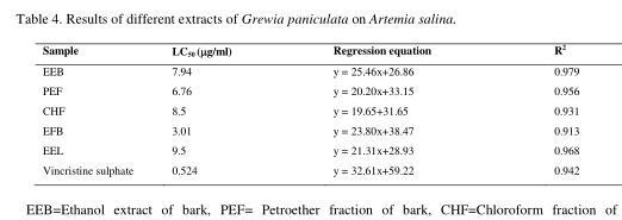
<table><thead><tr><td>Sample</td><td>LC50 (g/ml)</td><td>Regression equation</td><td>R<sup>2</sup></td></tr></thead><tbody><tr><td>EEB</td><td>7.94</td><td>y = 25.46x+26.86</td><td>0.979</td></tr><tr><td>PEF</td><td>6.76</td><td>y = 20.20x+33.15</td><td>0.956</td></tr><tr><td>CHF</td><td>8.5</td><td>y = 19.65+31.65</td><td>0.931</td></tr><tr><td>EFB</td><td>3.01</td><td>y = 23.80x+38.47</td><td>0.913</td></tr><tr><td>EEL</td><td>9.5</td><td>y = 21.31x+28.93</td><td>0.968</td></tr><tr><td>Vincristine sulphate</td><td>0.524</td><td>y = 32.61x+59.22</td><td>0.942</td></tr></tbody></table>